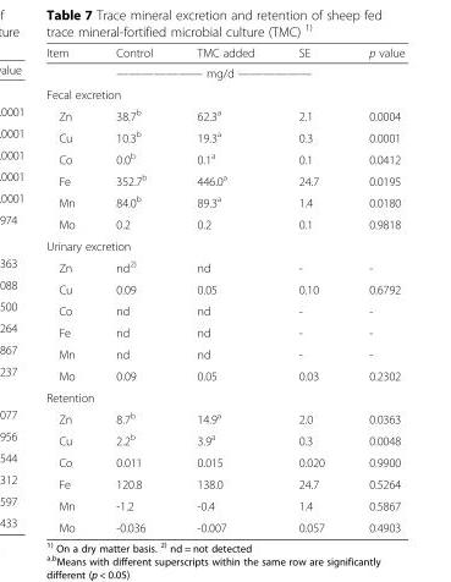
<table><thead><tr><td>Item</td><td>Control</td><td>TMC added</td><td>SE</td><td>p value</td></tr></thead><tbody><tr><td></td><td colspan="4">——————— mg/d ——————</td></tr><tr><td colspan="5">Fecal excretion</td></tr><tr><td>Zn</td><td>38.7<sup>b</sup></td><td>62.3<sup>a</sup></td><td>2.1</td><td>0.0004</td></tr><tr><td>Cu</td><td>10.3<sup>b</sup></td><td>19.3<sup>a</sup></td><td>0.3</td><td>0.0001</td></tr><tr><td>Co</td><td>0.0<sup>b</sup></td><td>0.1<sup>a</sup></td><td>0.1</td><td>0.0412</td></tr><tr><td>Fe</td><td>352.7<sup>b</sup></td><td>446.0<sup>a</sup></td><td>24.7</td><td>0.0195</td></tr><tr><td>Mn</td><td>84.0<sup>b</sup></td><td>89.3<sup>a</sup></td><td>1.4</td><td>0.0180</td></tr><tr><td>Mo</td><td>0.2</td><td>0.2</td><td>0.1</td><td>0.9818</td></tr><tr><td colspan="5">Urinary excretion</td></tr><tr><td>Zn</td><td>nd<sup>2)</sup></td><td>nd</td><td>-</td><td>-</td></tr><tr><td>Cu</td><td>0.09</td><td>0.05</td><td>0.10</td><td>0.6792</td></tr><tr><td>Co</td><td>nd</td><td>nd</td><td>-</td><td>-</td></tr><tr><td>Fe</td><td>nd</td><td>nd</td><td>-</td><td>-</td></tr><tr><td>Mn</td><td>nd</td><td>nd</td><td>-</td><td>-</td></tr><tr><td>Mo</td><td>0.09</td><td>0.05</td><td>0.03</td><td>0.2302</td></tr><tr><td colspan="5">Retention</td></tr><tr><td>Zn</td><td>8.7<sup>b</sup></td><td>14.9<sup>a</sup></td><td>2.0</td><td>0.0363</td></tr><tr><td>Cu</td><td>2.2<sup>b</sup></td><td>3.9<sup>a</sup></td><td>0.3</td><td>0.0048</td></tr><tr><td>Co</td><td>0.011</td><td>0.015</td><td>0.020</td><td>0.9900</td></tr><tr><td>Fe</td><td>120.8</td><td>138.0</td><td>24.7</td><td>0.5264</td></tr><tr><td>Mn</td><td>-1.2</td><td>-0.4</td><td>1.4</td><td>0.5867</td></tr><tr><td>Mo</td><td>-0.036</td><td>-0.007</td><td>0.057</td><td>0.4903</td></tr></tbody></table>